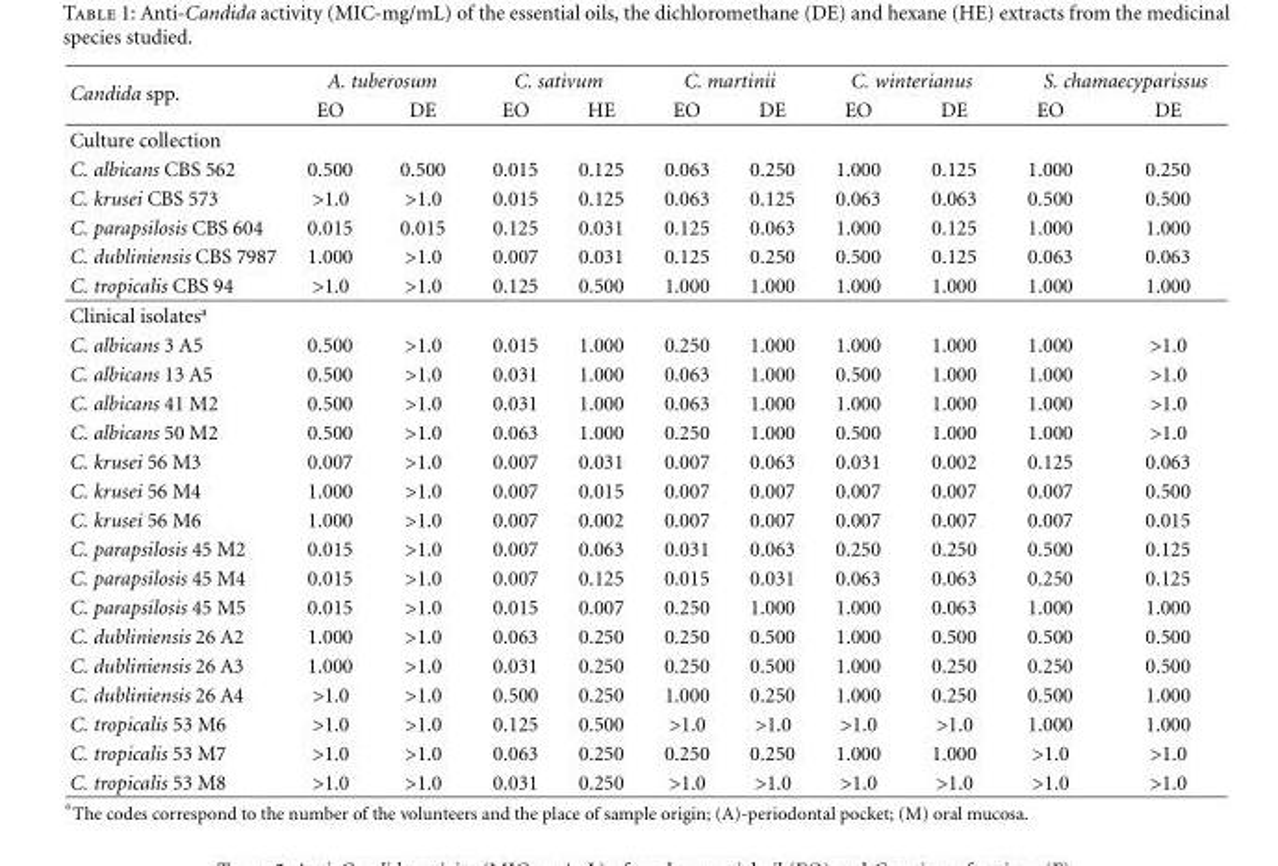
<table><thead><tr><td rowspan="2">Candida spp.</td><td colspan="2">A. tuberosum</td><td colspan="2">C. sativum</td><td colspan="2">C. martinii</td><td colspan="2">C. winterianus</td><td colspan="2">S. chamaecyparissus</td></tr><tr><td>EO</td><td>DE</td><td>EO</td><td>HE</td><td>EO</td><td>DE</td><td>EO</td><td>DE</td><td>EO</td><td>DE</td></tr></thead><tbody><tr><td colspan="11">Culture collection</td></tr><tr><td>C. albicans CBS 562</td><td>0.500</td><td>0.500</td><td>0.015</td><td>0.125</td><td>0.063</td><td>0.250</td><td>1.000</td><td>0.125</td><td>1.000</td><td>0.250</td></tr><tr><td>C. krusei CBS 573</td><td>&gt;1.0</td><td>&gt;1.0</td><td>0.015</td><td>0.125</td><td>0.063</td><td>0.125</td><td>0.063</td><td>0.063</td><td>0.500</td><td>0.500</td></tr><tr><td>C. parapsilosis CBS 604</td><td>0.015</td><td>0.015</td><td>0.125</td><td>0.031</td><td>0.125</td><td>0.063</td><td>1.000</td><td>0.125</td><td>1.000</td><td>1.000</td></tr><tr><td>C. dubliniensis CBS 7987</td><td>1.000</td><td>&gt;1.0</td><td>0.007</td><td>0.031</td><td>0.125</td><td>0.250</td><td>0.500</td><td>0.125</td><td>0.063</td><td>0.063</td></tr><tr><td>C. tropicalis CBS 94</td><td>&gt;1.0</td><td>&gt;1.0</td><td>0.125</td><td>0.500</td><td>1.000</td><td>1.000</td><td>1.000</td><td>1.000</td><td>1.000</td><td>1.000</td></tr><tr><td colspan="11">Clinical isolates<sup>a</sup></td></tr><tr><td>C. albicans 3 A5</td><td>0.500</td><td>&gt;1.0</td><td>0.015</td><td>1.000</td><td>0.250</td><td>1.000</td><td>1.000</td><td>1.000</td><td>1.000</td><td>&gt;1.0</td></tr><tr><td>C. albicans 13 A5</td><td>0.500</td><td>&gt;1.0</td><td>0.031</td><td>1.000</td><td>0.063</td><td>1.000</td><td>0.500</td><td>1.000</td><td>1.000</td><td>&gt;1.0</td></tr><tr><td>C. albicans 41 M2</td><td>0.500</td><td>&gt;1.0</td><td>0.031</td><td>1.000</td><td>0.063</td><td>1.000</td><td>1.000</td><td>1.000</td><td>1.000</td><td>&gt;1.0</td></tr><tr><td>C. albicans 50 M2</td><td>0.500</td><td>&gt;1.0</td><td>0.063</td><td>1.000</td><td>0.250</td><td>1.000</td><td>0.500</td><td>1.000</td><td>1.000</td><td>&gt;1.0</td></tr><tr><td>C. krusei 56 M3</td><td>0.007</td><td>&gt;1.0</td><td>0.007</td><td>0.031</td><td>0.007</td><td>0.063</td><td>0.031</td><td>0.002</td><td>0.125</td><td>0.063</td></tr><tr><td>C. krusei 56 M4</td><td>1.000</td><td>&gt;1.0</td><td>0.007</td><td>0.015</td><td>0.007</td><td>0.007</td><td>0.007</td><td>0.007</td><td>0.007</td><td>0.500</td></tr><tr><td>C. krusei 56 M6</td><td>1.000</td><td>&gt;1.0</td><td>0.007</td><td>0.002</td><td>0.007</td><td>0.007</td><td>0.007</td><td>0.007</td><td>0.007</td><td>0.015</td></tr><tr><td>C. parapsilosis 45 M2</td><td>0.015</td><td>&gt;1.0</td><td>0.007</td><td>0.063</td><td>0.031</td><td>0.063</td><td>0.250</td><td>0.250</td><td>0.500</td><td>0.125</td></tr><tr><td>C. parapsilosis 45 M4</td><td>0.015</td><td>&gt;1.0</td><td>0.007</td><td>0.125</td><td>0.015</td><td>0.031</td><td>0.063</td><td>0.063</td><td>0.250</td><td>0.125</td></tr><tr><td>C. parapsilosis 45 M5</td><td>0.015</td><td>&gt;1.0</td><td>0.015</td><td>0.007</td><td>0.250</td><td>1.000</td><td>1.000</td><td>0.063</td><td>1.000</td><td>1.000</td></tr><tr><td>C. dubliniensis 26 A2</td><td>1.000</td><td>&gt;1.0</td><td>0.063</td><td>0.250</td><td>0.250</td><td>0.500</td><td>1.000</td><td>0.500</td><td>0.500</td><td>0.500</td></tr><tr><td>C. dubliniensis 26 A3</td><td>1.000</td><td>&gt;1.0</td><td>0.031</td><td>0.250</td><td>0.250</td><td>0.500</td><td>1.000</td><td>0.250</td><td>0.250</td><td>0.500</td></tr><tr><td>C. dubliniensis 26 A4</td><td>&gt;1.0</td><td>&gt;1.0</td><td>0.500</td><td>0.250</td><td>1.000</td><td>0.250</td><td>1.000</td><td>0.250</td><td>0.500</td><td>1.000</td></tr><tr><td>C. tropicalis 53 M6</td><td>&gt;1.0</td><td>&gt;1.0</td><td>0.125</td><td>0.500</td><td>&gt;1.0</td><td>&gt;1.0</td><td>&gt;1.0</td><td>&gt;1.0</td><td>1.000</td><td>1.000</td></tr><tr><td>C. tropicalis 53 M7</td><td>&gt;1.0</td><td>&gt;1.0</td><td>0.063</td><td>0.250</td><td>0.250</td><td>0.250</td><td>1.000</td><td>1.000</td><td>&gt;1.0</td><td>&gt;1.0</td></tr><tr><td>C. tropicalis 53 M8</td><td>&gt;1.0</td><td>&gt;1.0</td><td>0.031</td><td>0.250</td><td>&gt;1.0</td><td>&gt;1.0</td><td>&gt;1.0</td><td>&gt;1.0</td><td>&gt;1.0</td><td>&gt;1.0</td></tr></tbody></table>